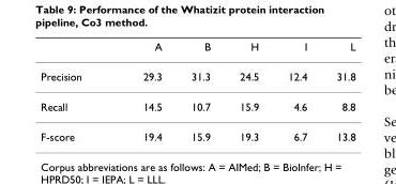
<table><thead><tr><td></td><td>A</td><td>B</td><td>H</td><td>I</td><td>L</td></tr></thead><tbody><tr><td>Precision</td><td>29.3</td><td>31.3</td><td>24.5</td><td>12.4</td><td>31.8</td></tr><tr><td>Recall</td><td>14.5</td><td>10.7</td><td>15.9</td><td>4.6</td><td>8.8</td></tr><tr><td>F-score</td><td>19.4</td><td>15.9</td><td>19.3</td><td>6.7</td><td>13.8</td></tr></tbody></table>